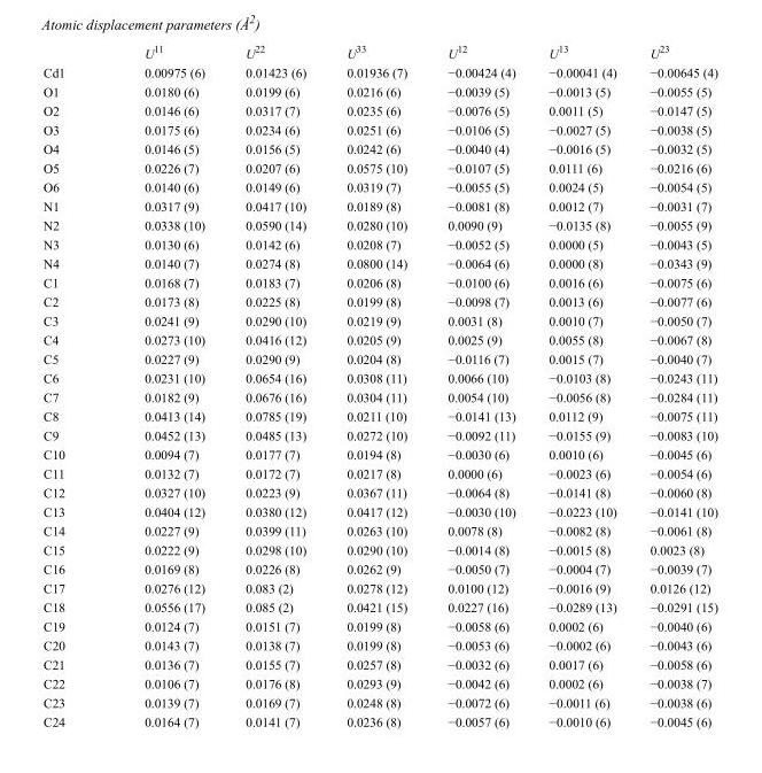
<table><thead><tr><td></td><td>U<sup>11</sup></td><td>U<sup>22</sup></td><td>U<sup>33</sup></td><td>U<sup>12</sup></td><td>U<sup>13</sup></td><td>U<sup>23</sup></td></tr></thead><tbody><tr><td>Cd1</td><td>0.00975 (6)</td><td>0.01423 (6)</td><td>0.01936 (7)</td><td>−0.00424 (4)</td><td>−0.00041 (4)</td><td>−0.00645 (4)</td></tr><tr><td>O1</td><td>0.0180 (6)</td><td>0.0199 (6)</td><td>0.0216 (6)</td><td>−0.0039 (5)</td><td>−0.0013 (5)</td><td>−0.0055 (5)</td></tr><tr><td>O2</td><td>0.0146 (6)</td><td>0.0317 (7)</td><td>0.0235 (6)</td><td>−0.0076 (5)</td><td>0.0011 (5)</td><td>−0.0147 (5)</td></tr><tr><td>O3</td><td>0.0175 (6)</td><td>0.0234 (6)</td><td>0.0251 (6)</td><td>−0.0106 (5)</td><td>−0.0027 (5)</td><td>−0.0038 (5)</td></tr><tr><td>O4</td><td>0.0146 (5)</td><td>0.0156 (5)</td><td>0.0242 (6)</td><td>−0.0040 (4)</td><td>−0.0016 (5)</td><td>−0.0032 (5)</td></tr><tr><td>O5</td><td>0.0226 (7)</td><td>0.0207 (6)</td><td>0.0575 (10)</td><td>−0.0107 (5)</td><td>0.0111 (6)</td><td>−0.0216 (6)</td></tr><tr><td>O6</td><td>0.0140 (6)</td><td>0.0149 (6)</td><td>0.0319 (7)</td><td>−0.0055 (5)</td><td>0.0024 (5)</td><td>−0.0054 (5)</td></tr><tr><td>N1</td><td>0.0317 (9)</td><td>0.0417 (10)</td><td>0.0189 (8)</td><td>−0.0081 (8)</td><td>0.0012 (7)</td><td>−0.0031 (7)</td></tr><tr><td>N2</td><td>0.0338 (10)</td><td>0.0590 (14)</td><td>0.0280 (10)</td><td>0.0090 (9)</td><td>−0.0135 (8)</td><td>−0.0055 (9)</td></tr><tr><td>N3</td><td>0.0130 (6)</td><td>0.0142 (6)</td><td>0.0208 (7)</td><td>−0.0052 (5)</td><td>0.0000 (5)</td><td>−0.0043 (5)</td></tr><tr><td>N4</td><td>0.0140 (7)</td><td>0.0274 (8)</td><td>0.0800 (14)</td><td>−0.0064 (6)</td><td>0.0000 (8)</td><td>−0.0343 (9)</td></tr><tr><td>C1</td><td>0.0168 (7)</td><td>0.0183 (7)</td><td>0.0206 (8)</td><td>−0.0100 (6)</td><td>0.0016 (6)</td><td>−0.0075 (6)</td></tr><tr><td>C2</td><td>0.0173 (8)</td><td>0.0225 (8)</td><td>0.0199 (8)</td><td>−0.0098 (7)</td><td>0.0013 (6)</td><td>−0.0077 (6)</td></tr><tr><td>C3</td><td>0.0241 (9)</td><td>0.0290 (10)</td><td>0.0219 (9)</td><td>0.0031 (8)</td><td>0.0010 (7)</td><td>−0.0050 (7)</td></tr><tr><td>C4</td><td>0.0273 (10)</td><td>0.0416 (12)</td><td>0.0205 (9)</td><td>0.0025 (9)</td><td>0.0055 (8)</td><td>−0.0067 (8)</td></tr><tr><td>C5</td><td>0.0227 (9)</td><td>0.0290 (9)</td><td>0.0204 (8)</td><td>−0.0116 (7)</td><td>0.0015 (7)</td><td>−0.0040 (7)</td></tr><tr><td>C6</td><td>0.0231 (10)</td><td>0.0654 (16)</td><td>0.0308 (11)</td><td>0.0066 (10)</td><td>−0.0103 (8)</td><td>−0.0243 (11)</td></tr><tr><td>C7</td><td>0.0182 (9)</td><td>0.0676 (16)</td><td>0.0304 (11)</td><td>0.0054 (10)</td><td>−0.0056 (8)</td><td>−0.0284 (11)</td></tr><tr><td>C8</td><td>0.0413 (14)</td><td>0.0785 (19)</td><td>0.0211 (10)</td><td>−0.0141 (13)</td><td>0.0112 (9)</td><td>−0.0075 (11)</td></tr><tr><td>C9</td><td>0.0452 (13)</td><td>0.0485 (13)</td><td>0.0272 (10)</td><td>−0.0092 (11)</td><td>−0.0155 (9)</td><td>−0.0083 (10)</td></tr><tr><td>C10</td><td>0.0094 (7)</td><td>0.0177 (7)</td><td>0.0194 (8)</td><td>−0.0030 (6)</td><td>0.0010 (6)</td><td>−0.0045 (6)</td></tr><tr><td>C11</td><td>0.0132 (7)</td><td>0.0172 (7)</td><td>0.0217 (8)</td><td>0.0000 (6)</td><td>−0.0023 (6)</td><td>−0.0054 (6)</td></tr><tr><td>C12</td><td>0.0327 (10)</td><td>0.0223 (9)</td><td>0.0367 (11)</td><td>−0.0064 (8)</td><td>−0.0141 (8)</td><td>−0.0060 (8)</td></tr><tr><td>C13</td><td>0.0404 (12)</td><td>0.0380 (12)</td><td>0.0417 (12)</td><td>−0.0030 (10)</td><td>−0.0223 (10)</td><td>−0.0141 (10)</td></tr><tr><td>C14</td><td>0.0227 (9)</td><td>0.0399 (11)</td><td>0.0263 (10)</td><td>0.0078 (8)</td><td>−0.0082 (8)</td><td>−0.0061 (8)</td></tr><tr><td>C15</td><td>0.0222 (9)</td><td>0.0298 (10)</td><td>0.0290 (10)</td><td>−0.0014 (8)</td><td>−0.0015 (8)</td><td>0.0023 (8)</td></tr><tr><td>C16</td><td>0.0169 (8)</td><td>0.0226 (8)</td><td>0.0262 (9)</td><td>−0.0050 (7)</td><td>−0.0004 (7)</td><td>−0.0039 (7)</td></tr><tr><td>C17</td><td>0.0276 (12)</td><td>0.083 (2)</td><td>0.0278 (12)</td><td>0.0100 (12)</td><td>−0.0016 (9)</td><td>0.0126 (12)</td></tr><tr><td>C18</td><td>0.0556 (17)</td><td>0.085 (2)</td><td>0.0421 (15)</td><td>0.0227 (16)</td><td>−0.0289 (13)</td><td>−0.0291 (15)</td></tr><tr><td>C19</td><td>0.0124 (7)</td><td>0.0151 (7)</td><td>0.0199 (8)</td><td>−0.0058 (6)</td><td>0.0002 (6)</td><td>−0.0040 (6)</td></tr><tr><td>C20</td><td>0.0143 (7)</td><td>0.0138 (7)</td><td>0.0199 (8)</td><td>−0.0053 (6)</td><td>−0.0002 (6)</td><td>−0.0043 (6)</td></tr><tr><td>C21</td><td>0.0136 (7)</td><td>0.0155 (7)</td><td>0.0257 (8)</td><td>−0.0032 (6)</td><td>0.0017 (6)</td><td>−0.0058 (6)</td></tr><tr><td>C22</td><td>0.0106 (7)</td><td>0.0176 (8)</td><td>0.0293 (9)</td><td>−0.0042 (6)</td><td>0.0002 (6)</td><td>−0.0038 (7)</td></tr><tr><td>C23</td><td>0.0139 (7)</td><td>0.0169 (7)</td><td>0.0248 (8)</td><td>−0.0072 (6)</td><td>−0.0011 (6)</td><td>−0.0038 (6)</td></tr><tr><td>C24</td><td>0.0164 (7)</td><td>0.0141 (7)</td><td>0.0236 (8)</td><td>−0.0057 (6)</td><td>−0.0010 (6)</td><td>−0.0045 (6)</td></tr></tbody></table>